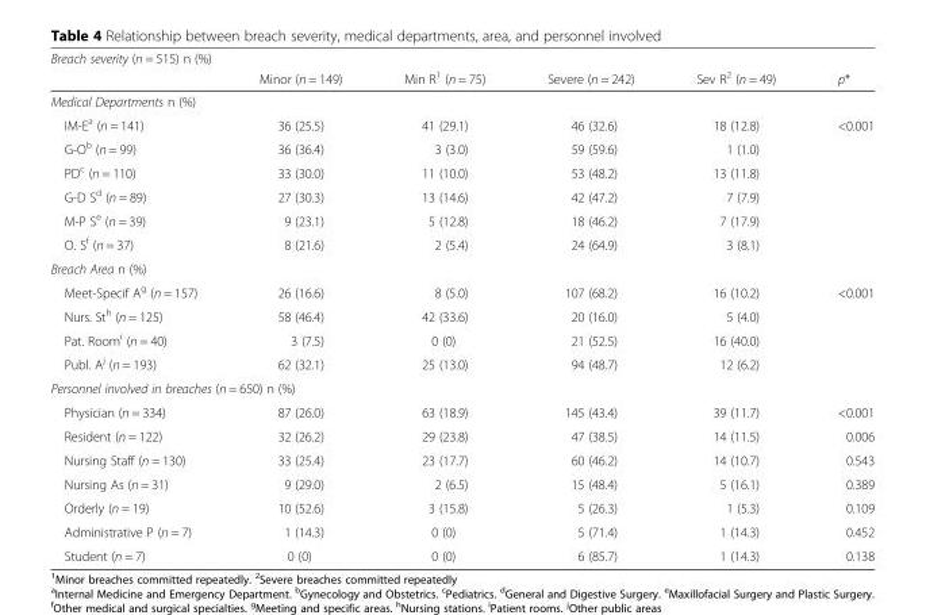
<table><thead><tr><td colspan="6">Breach severity (n = 515) n (%)</td></tr><tr><td></td><td>Minor (n = 149)</td><td>Min R<sup>1</sup> (n = 75)</td><td>Severe (n = 242)</td><td>Sev R<sup>2</sup> (n = 49)</td><td>p*</td></tr></thead><tbody><tr><td colspan="6">Medical Departments n (%)</td></tr><tr><td>IM-E<sup>a</sup> (n = 141)</td><td>36 (25.5)</td><td>41 (29.1)</td><td>46 (32.6)</td><td>18 (12.8)</td><td rowspan="6">&lt;0.001</td></tr><tr><td>G-O<sup>b</sup> (n = 99)</td><td>36 (36.4)</td><td>3 (3.0)</td><td>59 (59.6)</td><td>1 (1.0)</td></tr><tr><td>PD<sup>c</sup> (n = 110)</td><td>33 (30.0)</td><td>11 (10.0)</td><td>53 (48.2)</td><td>13 (11.8)</td></tr><tr><td>G-D S<sup>d</sup> (n = 89)</td><td>27 (30.3)</td><td>13 (14.6)</td><td>42 (47.2)</td><td>7 (7.9)</td></tr><tr><td>M-P S<sup>e</sup> (n = 39)</td><td>9 (23.1)</td><td>5 (12.8)</td><td>18 (46.2)</td><td>7 (17.9)</td></tr><tr><td>O. S<sup>f</sup> (n = 37)</td><td>8 (21.6)</td><td>2 (5.4)</td><td>24 (64.9)</td><td>3 (8.1)</td></tr><tr><td colspan="6">Breach Area n (%)</td></tr><tr><td>Meet-Specif A<sup>g</sup> (n = 157)</td><td>26 (16.6)</td><td>8 (5.0)</td><td>107 (68.2)</td><td>16 (10.2)</td><td rowspan="4">&lt;0.001</td></tr><tr><td>Nurs. St<sup>h</sup> (n = 125)</td><td>58 (46.4)</td><td>42 (33.6)</td><td>20 (16.0)</td><td>5 (4.0)</td></tr><tr><td>Pat. Room<sup>i</sup> (n = 40)</td><td>3 (7.5)</td><td>0 (0)</td><td>21 (52.5)</td><td>16 (40.0)</td></tr><tr><td>Publ. A<sup>j</sup> (n = 193)</td><td>62 (32.1)</td><td>25 (13.0)</td><td>94 (48.7)</td><td>12 (6.2)</td></tr><tr><td colspan="6">Personnel involved in breaches (n = 650) n (%)</td></tr><tr><td>Physician (n = 334)</td><td>87 (26.0)</td><td>63 (18.9)</td><td>145 (43.4)</td><td>39 (11.7)</td><td>&lt;0.001</td></tr><tr><td>Resident (n = 122)</td><td>32 (26.2)</td><td>29 (23.8)</td><td>47 (38.5)</td><td>14 (11.5)</td><td>0.006</td></tr><tr><td>Nursing Staff (n = 130)</td><td>33 (25.4)</td><td>23 (17.7)</td><td>60 (46.2)</td><td>14 (10.7)</td><td>0.543</td></tr><tr><td>Nursing As (n = 31)</td><td>9 (29.0)</td><td>2 (6.5)</td><td>15 (48.4)</td><td>5 (16.1)</td><td>0.389</td></tr><tr><td>Orderly (n = 19)</td><td>10 (52.6)</td><td>3 (15.8)</td><td>5 (26.3)</td><td>1 (5.3)</td><td>0.109</td></tr><tr><td>Administrative P (n = 7)</td><td>1 (14.3)</td><td>0 (0)</td><td>5 (71.4)</td><td>1 (14.3)</td><td>0.452</td></tr><tr><td>Student (n = 7)</td><td>0 (0)</td><td>0 (0)</td><td>6 (85.7)</td><td>1 (14.3)</td><td>0.138</td></tr></tbody></table>